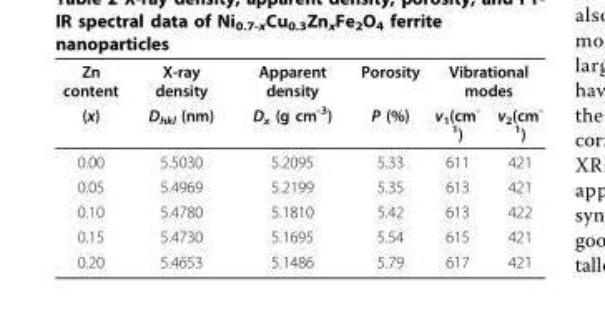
<table><thead><tr><td rowspan="2">Zn content (x)</td><td rowspan="2">X-ray density D<sub>hkl</sub> (nm)</td><td rowspan="2">Apparent density D<sub>x</sub> (g cm<sup>-3</sup>)</td><td rowspan="2">Porosity P (%)</td><td colspan="2">Vibrational modes</td></tr><tr><td>v<sub>1</sub>(cm<sup>- 1</sup>)</td><td>v<sub>2</sub>(cm<sup>- 1</sup>)</td></tr></thead><tbody><tr><td>0.00</td><td>5.5030</td><td>5.2095</td><td>5.33</td><td>611</td><td>421</td></tr><tr><td>0.05</td><td>5.4969</td><td>5.2199</td><td>5.35</td><td>613</td><td>421</td></tr><tr><td>0.10</td><td>5.4780</td><td>5.1810</td><td>5.42</td><td>613</td><td>422</td></tr><tr><td>0.15</td><td>5.4730</td><td>5.1695</td><td>5.54</td><td>615</td><td>421</td></tr><tr><td>0.20</td><td>5.4653</td><td>5.1486</td><td>5.79</td><td>617</td><td>421</td></tr></tbody></table>